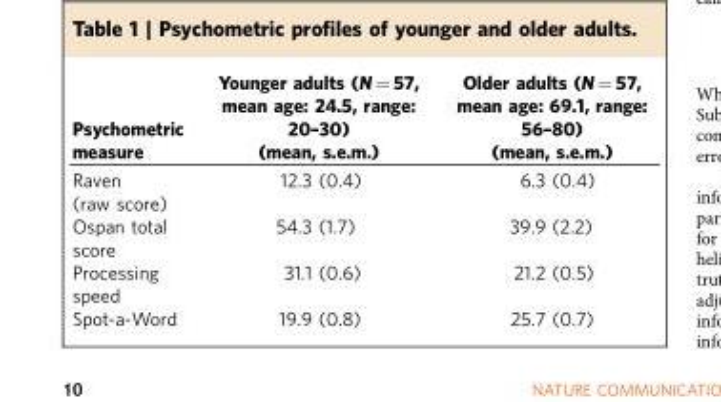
<table><thead><tr><td rowspan="2">Psychometric measure</td><td rowspan="2">Younger adults (N = 57, mean age: 24.5, range: 20–30) (mean, s.e.m.)</td><td rowspan="2">Older adults (N = 57, mean age: 69.1, range: 56–80) (mean, s.e.m.)</td></tr><tr></tr></thead><tbody><tr><td>Raven (raw score)</td><td>12.3 (0.4)</td><td>6.3 (0.4)</td></tr><tr><td>Ospan total score</td><td>54.3 (1.7)</td><td>39.9 (2.2)</td></tr><tr><td>Processing speed</td><td>31.1 (0.6)</td><td>21.2 (0.5)</td></tr><tr><td>Spot-a-Word</td><td>19.9 (0.8)</td><td>25.7 (0.7)</td></tr></tbody></table>